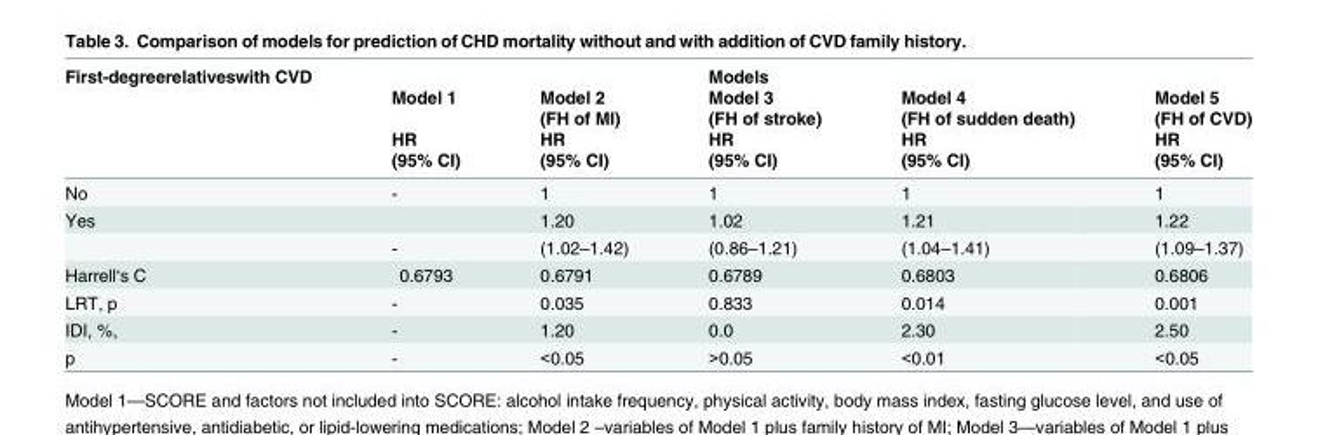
<table><thead><tr><td rowspan="5">First-degreerelativeswith CVD</td><td rowspan="5">Model 1 HR (95% CI)</td><td rowspan="5">Model 2 (FH of MI) HR (95% CI)</td><td rowspan="5">Models Model 3 (FH of stroke) HR (95% CI)</td><td rowspan="5">Model 4 (FH of sudden death) HR (95% CI)</td><td rowspan="5">Model 5 (FH of CVD) HR (95% CI)</td></tr><tr></tr><tr></tr><tr></tr><tr></tr></thead><tbody><tr><td>No</td><td>-</td><td>1</td><td>1</td><td>1</td><td>1</td></tr><tr><td rowspan="2">Yes</td><td></td><td>1.20</td><td>1.02</td><td>1.21</td><td>1.22</td></tr><tr><td>-</td><td>(1.02–1.42)</td><td>(0.86–1.21)</td><td>(1.04–1.41)</td><td>(1.09–1.37)</td></tr><tr><td>Harrell‘s C</td><td>0.6793</td><td>0.6791</td><td>0.6789</td><td>0.6803</td><td>0.6806</td></tr><tr><td>LRT, p</td><td>-</td><td>0.035</td><td>0.833</td><td>0.014</td><td>0.001</td></tr><tr><td>IDI, %,</td><td>-</td><td>1.20</td><td>0.0</td><td>2.30</td><td>2.50</td></tr><tr><td>p</td><td>-</td><td>&lt;0.05</td><td>&gt;0.05</td><td>&lt;0.01</td><td>&lt;0.05</td></tr></tbody></table>